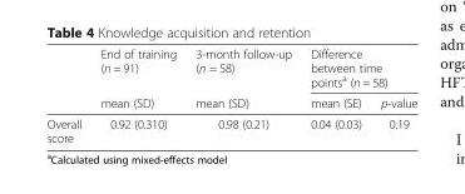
<table><thead><tr><td rowspan="2"></td><td rowspan="2">End of training (n = 91) mean (SD)</td><td rowspan="2">3-month follow-up (n = 58) mean (SD)</td><td colspan="2">Difference between time points<sup>a</sup> (n = 58)</td></tr><tr><td>mean (SE)</td><td>p-value</td></tr></thead><tbody><tr><td>Overall score</td><td>0.92 (0.310)</td><td>0.98 (0.21)</td><td>0.04 (0.03)</td><td>0.19</td></tr></tbody></table>